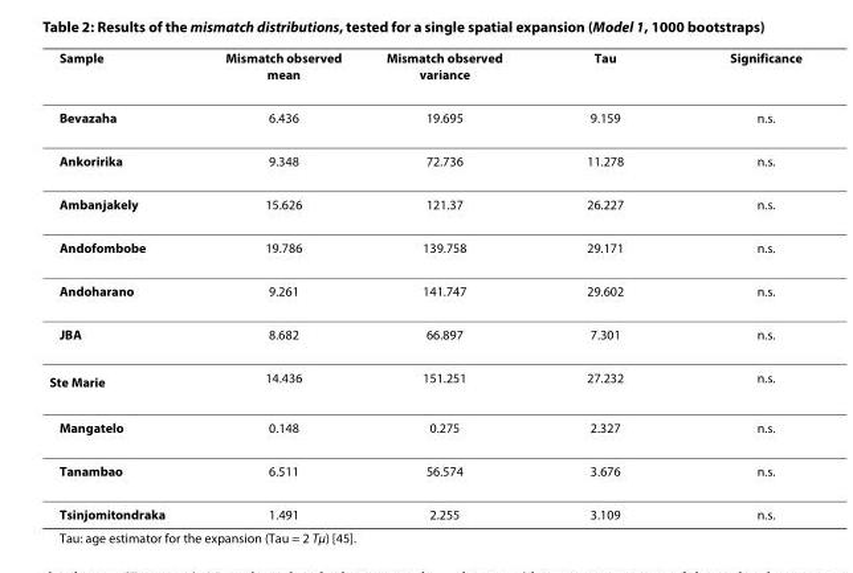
<table><thead><tr><td>Sample</td><td>Mismatch observed mean</td><td>Mismatch observed variance</td><td>Tau</td><td>Significance</td></tr></thead><tbody><tr><td>Bevazaha</td><td>6.436</td><td>19.695</td><td>9.159</td><td>n.s.</td></tr><tr><td>Ankoririka</td><td>9.348</td><td>72.736</td><td>11.278</td><td>n.s.</td></tr><tr><td>Ambanjakely</td><td>15.626</td><td>121.37</td><td>26.227</td><td>n.s.</td></tr><tr><td>Andofombobe</td><td>19.786</td><td>139.758</td><td>29.171</td><td>n.s.</td></tr><tr><td>Andoharano</td><td>9.261</td><td>141.747</td><td>29.602</td><td>n.s.</td></tr><tr><td>JBA</td><td>8.682</td><td>66.897</td><td>7.301</td><td>n.s.</td></tr><tr><td>S<sup>te</sup> Marie</td><td>14.436</td><td>151.251</td><td>27.232</td><td>n.s.</td></tr><tr><td>Mangatelo</td><td>0.148</td><td>0.275</td><td>2.327</td><td>n.s.</td></tr><tr><td>Tanambao</td><td>6.511</td><td>56.574</td><td>3.676</td><td>n.s.</td></tr><tr><td>Tsinjomitondraka</td><td>1.491</td><td>2.255</td><td>3.109</td><td>n.s.</td></tr></tbody></table>